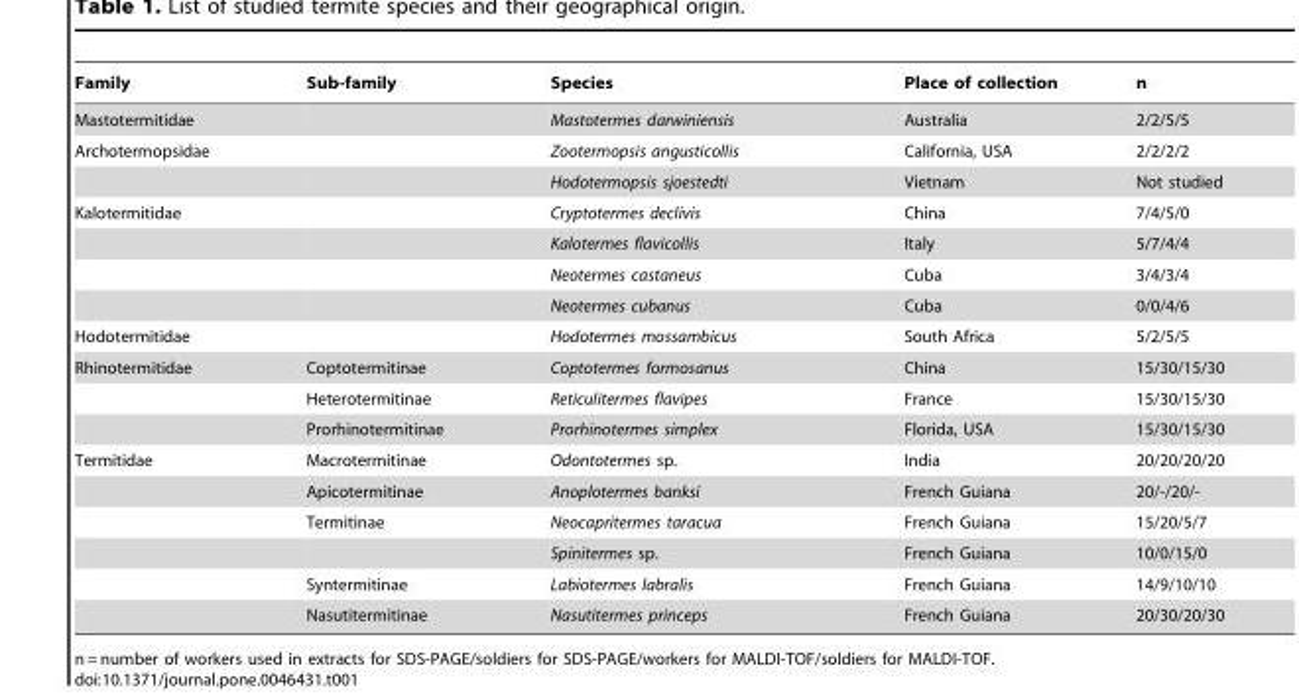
<table><thead><tr><td>Family</td><td>Sub-family</td><td>Species</td><td>Place of collection</td><td>n</td></tr></thead><tbody><tr><td>Mastotermitidae</td><td></td><td>Mastotermes darwiniensis</td><td>Australia</td><td>2/2/5/5</td></tr><tr><td rowspan="2">Archotermopsidae</td><td></td><td>Zootermopsis angusticollis</td><td>California, USA</td><td>2/2/2/2</td></tr><tr><td></td><td>Hodotermopsis sjoestedti</td><td>Vietnam</td><td>Not studied</td></tr><tr><td rowspan="4">Kalotermitidae</td><td></td><td>Cryptotermes declivis</td><td>China</td><td>7/4/5/0</td></tr><tr><td></td><td>Kalotermes flavicollis</td><td>Italy</td><td>5/7/4/4</td></tr><tr><td></td><td>Neotermes castaneus</td><td>Cuba</td><td>3/4/3/4</td></tr><tr><td></td><td>Neotermes cubanus</td><td>Cuba</td><td>0/0/4/6</td></tr><tr><td>Hodotermitidae</td><td></td><td>Hodotermes mossambicus</td><td>South Africa</td><td>5/2/5/5</td></tr><tr><td rowspan="3">Rhinotermitidae</td><td>Coptotermitinae</td><td>Coptotermes formosanus</td><td>China</td><td>15/30/15/30</td></tr><tr><td>Heterotermitinae</td><td>Reticulitermes flavipes</td><td>France</td><td>15/30/15/30</td></tr><tr><td>Prorhinotermitinae</td><td>Prorhinotermes simplex</td><td>Florida, USA</td><td>15/30/15/30</td></tr><tr><td rowspan="6">Termitidae</td><td>Macrotermitinae</td><td>Odontotermes sp.</td><td>India</td><td>20/20/20/20</td></tr><tr><td>Apicotermitinae</td><td>Anoplotermes banksi</td><td>French Guiana</td><td>20/-/20/-</td></tr><tr><td>Termitinae</td><td>Neocapritermes taracua</td><td>French Guiana</td><td>15/20/5/7</td></tr><tr><td></td><td>Spinitermes sp.</td><td>French Guiana</td><td>10/0/15/0</td></tr><tr><td>Syntermitinae</td><td>Labiotermes labralis</td><td>French Guiana</td><td>14/9/10/10</td></tr><tr><td>Nasutitermitinae</td><td>Nasutitermes princeps</td><td>French Guiana</td><td>20/30/20/30</td></tr></tbody></table>